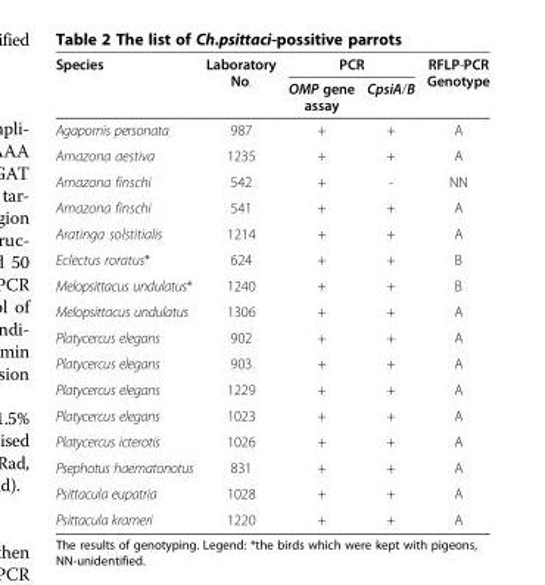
<table><thead><tr><td rowspan="2">Species</td><td rowspan="2">Laboratory No.</td><td colspan="2">PCR</td><td rowspan="2">RFLP-PCR Genotype</td></tr><tr><td>OMP gene assay</td><td>CpsiA/B</td></tr></thead><tbody><tr><td>Agapornis personata</td><td>987</td><td>+</td><td>+</td><td>A</td></tr><tr><td>Amazona aestiva</td><td>1235</td><td>+</td><td>+</td><td>A</td></tr><tr><td>Amazona finschi</td><td>542</td><td>+</td><td>-</td><td>NN</td></tr><tr><td>Amazona finschi</td><td>541</td><td>+</td><td>+</td><td>A</td></tr><tr><td>Aratinga solstitialis</td><td>1214</td><td>+</td><td>+</td><td>A</td></tr><tr><td>Eclectus roratus*</td><td>624</td><td>+</td><td>+</td><td>B</td></tr><tr><td>Melopsittacus undulatus*</td><td>1240</td><td>+</td><td>+</td><td>B</td></tr><tr><td>Melopsittacus undulatus</td><td>1306</td><td>+</td><td>+</td><td>A</td></tr><tr><td>Platycercus elegans</td><td>902</td><td>+</td><td>+</td><td>A</td></tr><tr><td>Platycercus elegans</td><td>903</td><td>+</td><td>+</td><td>A</td></tr><tr><td>Platycercus elegans</td><td>1229</td><td>+</td><td>+</td><td>A</td></tr><tr><td>Platycercus elegans</td><td>1023</td><td>+</td><td>+</td><td>A</td></tr><tr><td>Platycercus icterotis</td><td>1026</td><td>+</td><td>+</td><td>A</td></tr><tr><td>Psephotus haematonotus</td><td>831</td><td>+</td><td>+</td><td>A</td></tr><tr><td>Psittacula eupatria</td><td>1028</td><td>+</td><td>+</td><td>A</td></tr><tr><td>Psittacula krameri</td><td>1220</td><td>+</td><td>+</td><td>A</td></tr></tbody></table>